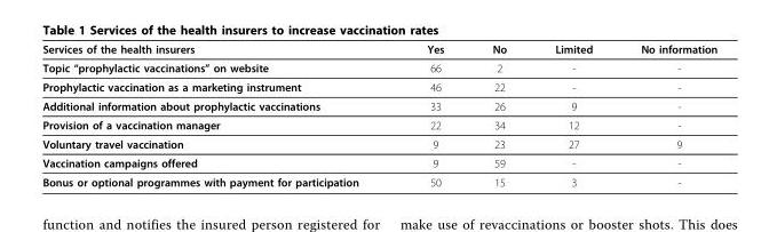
<table><thead><tr><td>Services of the health insurers</td><td>Yes</td><td>No</td><td>Limited</td><td>No information</td></tr></thead><tbody><tr><td>Topic “prophylactic vaccinations” on website</td><td>66</td><td>2</td><td>-</td><td>-</td></tr><tr><td>Prophylactic vaccination as a marketing instrument</td><td>46</td><td>22</td><td>-</td><td>-</td></tr><tr><td>Additional information about prophylactic vaccinations</td><td>33</td><td>26</td><td>9</td><td>-</td></tr><tr><td>Provision of a vaccination manager</td><td>22</td><td>34</td><td>12</td><td>-</td></tr><tr><td>Voluntary travel vaccination</td><td>9</td><td>23</td><td>27</td><td>9</td></tr><tr><td>Vaccination campaigns offered</td><td>9</td><td>59</td><td>-</td><td>-</td></tr><tr><td>Bonus or optional programmes with payment for participation</td><td>50</td><td>15</td><td>3</td><td>-</td></tr></tbody></table>